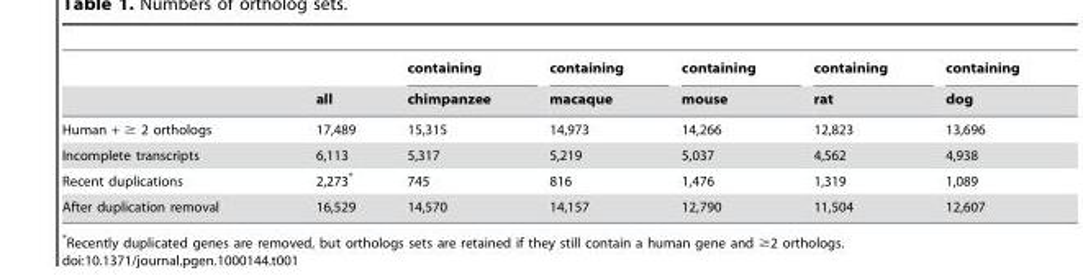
<table><thead><tr><td rowspan="2"></td><td rowspan="2">all</td><td rowspan="2">containing chimpanzee</td><td rowspan="2">containing macaque</td><td rowspan="2">containing mouse</td><td rowspan="2">containing rat</td><td rowspan="2">containing dog</td></tr><tr></tr></thead><tbody><tr><td>Human + ≥ 2 orthologs</td><td>17,489</td><td>15,315</td><td>14,973</td><td>14,266</td><td>12,823</td><td>13,696</td></tr><tr><td>Incomplete transcripts</td><td>6,113</td><td>5,317</td><td>5,219</td><td>5,037</td><td>4,562</td><td>4,938</td></tr><tr><td>Recent duplications</td><td>2,273*</td><td>745</td><td>816</td><td>1,476</td><td>1,319</td><td>1,089</td></tr><tr><td>After duplication removal</td><td>16,529</td><td>14,570</td><td>14,157</td><td>12,790</td><td>11,504</td><td>12,607</td></tr></tbody></table>